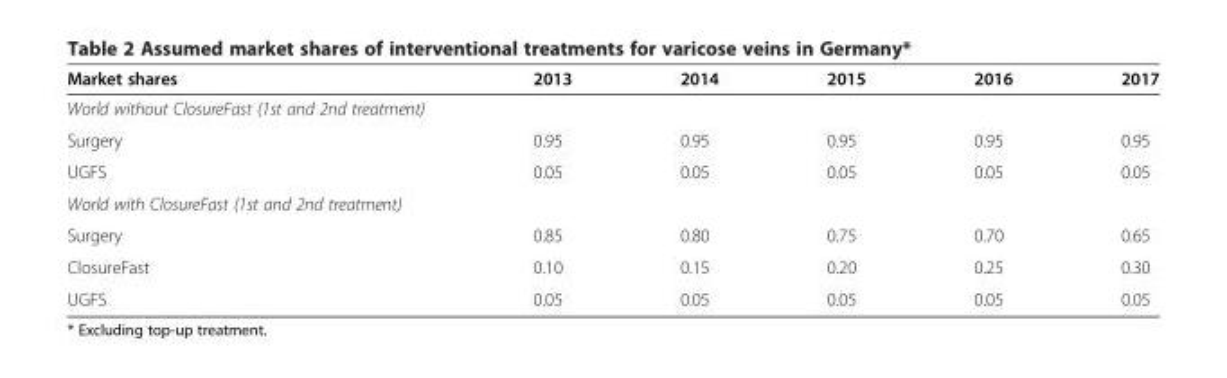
<table><thead><tr><td>Market shares</td><td>2013</td><td>2014</td><td>2015</td><td>2016</td><td>2017</td></tr></thead><tbody><tr><td colspan="6">World without ClosureFast (1st and 2nd treatment)</td></tr><tr><td>Surgery</td><td>0.95</td><td>0.95</td><td>0.95</td><td>0.95</td><td>0.95</td></tr><tr><td>UGFS</td><td>0.05</td><td>0.05</td><td>0.05</td><td>0.05</td><td>0.05</td></tr><tr><td colspan="6">World with ClosureFast (1st and 2nd treatment)</td></tr><tr><td>Surgery</td><td>0.85</td><td>0.80</td><td>0.75</td><td>0.70</td><td>0.65</td></tr><tr><td>ClosureFast</td><td>0.10</td><td>0.15</td><td>0.20</td><td>0.25</td><td>0.30</td></tr><tr><td>UGFS</td><td>0.05</td><td>0.05</td><td>0.05</td><td>0.05</td><td>0.05</td></tr></tbody></table>